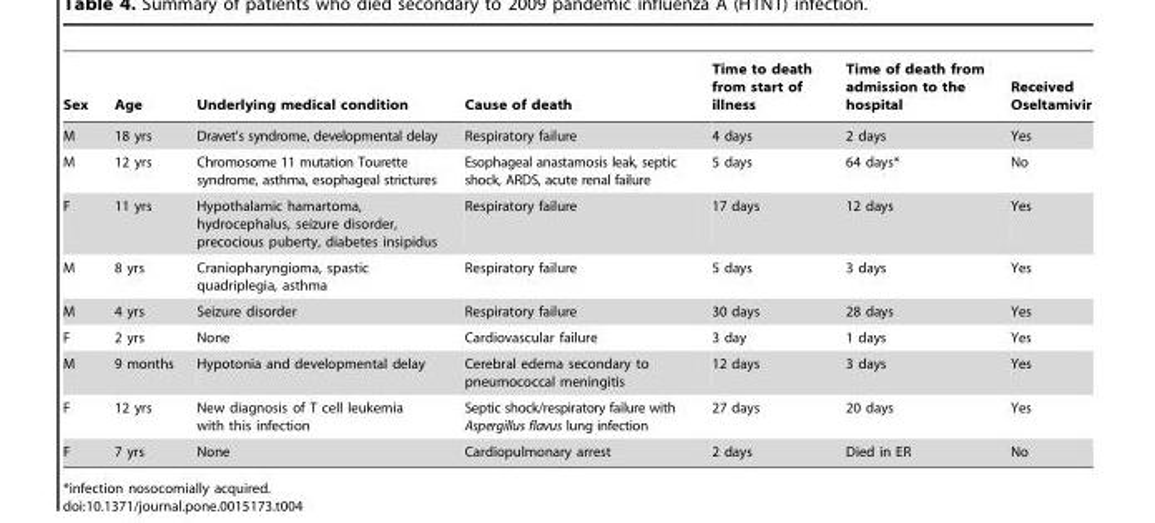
<table><thead><tr><td>Sex</td><td>Age</td><td>Underlying medical condition</td><td>Cause of death</td><td>Time to death from start of illness</td><td>Time of death from admission to the hospital</td><td>Received Oseltamivir</td></tr></thead><tbody><tr><td>M</td><td>18 yrs</td><td>Dravet’s syndrome, developmental delay</td><td>Respiratory failure</td><td>4 days</td><td>2 days</td><td>Yes</td></tr><tr><td>M</td><td>12 yrs</td><td>Chromosome 11 mutation Tourette syndrome, asthma, esophageal strictures</td><td>Esophageal anastamosis leak, septic shock, ARDS, acute renal failure</td><td>5 days</td><td>64 days*</td><td>No</td></tr><tr><td>F</td><td>11 yrs</td><td>Hypothalamic hamartoma, hydrocephalus, seizure disorder, precocious puberty, diabetes insipidus</td><td>Respiratory failure</td><td>17 days</td><td>12 days</td><td>Yes</td></tr><tr><td>M</td><td>8 yrs</td><td>Craniopharyngioma, spastic quadriplegia, asthma</td><td>Respiratory failure</td><td>5 days</td><td>3 days</td><td>Yes</td></tr><tr><td>M</td><td>4 yrs</td><td>Seizure disorder</td><td>Respiratory failure</td><td>30 days</td><td>28 days</td><td>Yes</td></tr><tr><td>F</td><td>2 yrs</td><td>None</td><td>Cardiovascular failure</td><td>3 day</td><td>1 days</td><td>Yes</td></tr><tr><td>M</td><td>9 months</td><td>Hypotonia and developmental delay</td><td>Cerebral edema secondary to pneumococcal meningitis</td><td>12 days</td><td>3 days</td><td>Yes</td></tr><tr><td>F</td><td>12 yrs</td><td>New diagnosis of T cell leukemia with this infection</td><td>Septic shock/respiratory failure with Aspergillus flavus lung infection</td><td>27 days</td><td>20 days</td><td>Yes</td></tr><tr><td>F</td><td>7 yrs</td><td>None</td><td>Cardiopulmonary arrest</td><td>2 days</td><td>Died in ER</td><td>No</td></tr></tbody></table>